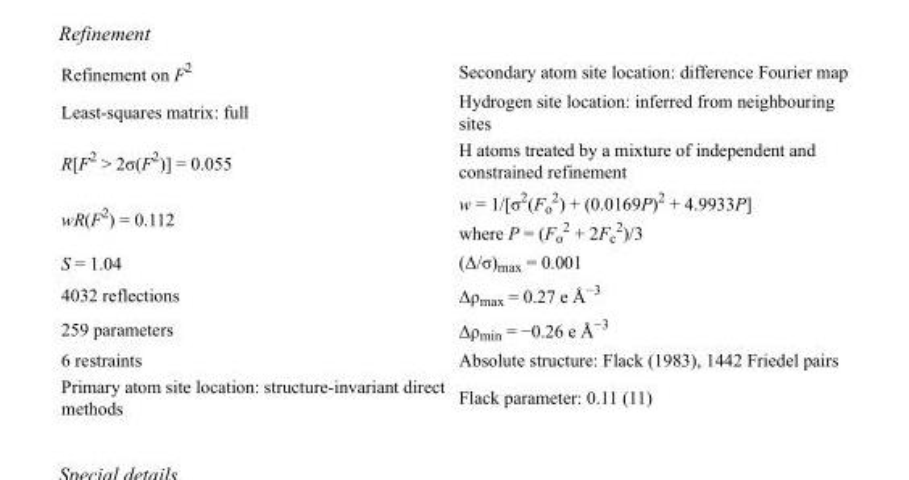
<table><tbody><tr><td>Refinement on F<sup>2</sup></td><td>Secondary atom site location: difference Fourier map</td></tr><tr><td>Least-squares matrix: full</td><td>Hydrogen site location: inferred from neighbouring sites</td></tr><tr><td>R[F<sup>2</sup> &gt; 2σ(F<sup>2</sup>)] = 0.055</td><td>H atoms treated by a mixture of independent and constrained refinement</td></tr><tr><td>wR(F<sup>2</sup>) = 0.112</td><td>w = 1/[σ<sup>2</sup>(F<sub>o</sub> <sup>2</sup>) + (0.0169P)<sup>2</sup> + 4.9933P] where P = (F<sub>o</sub> <sup>2</sup> + 2F<sub>c</sub> <sup>2</sup>)/3</td></tr><tr><td>S = 1.04</td><td>(Δ/σ)<sub>max</sub> = 0.001</td></tr><tr><td>4032 reflections</td><td>Δρ<sub>max</sub> = 0.27 e Å<sup>−3</sup></td></tr><tr><td>259 parameters</td><td>Δρ<sub>min</sub> = −0.26 e Å<sup>−3</sup></td></tr><tr><td>6 restraints</td><td>Absolute structure: Flack (1983), 1442 Friedel pairs</td></tr><tr><td>Primary atom site location: structure-invariant direct methods</td><td>Flack parameter: 0.11 (11)</td></tr></tbody></table>